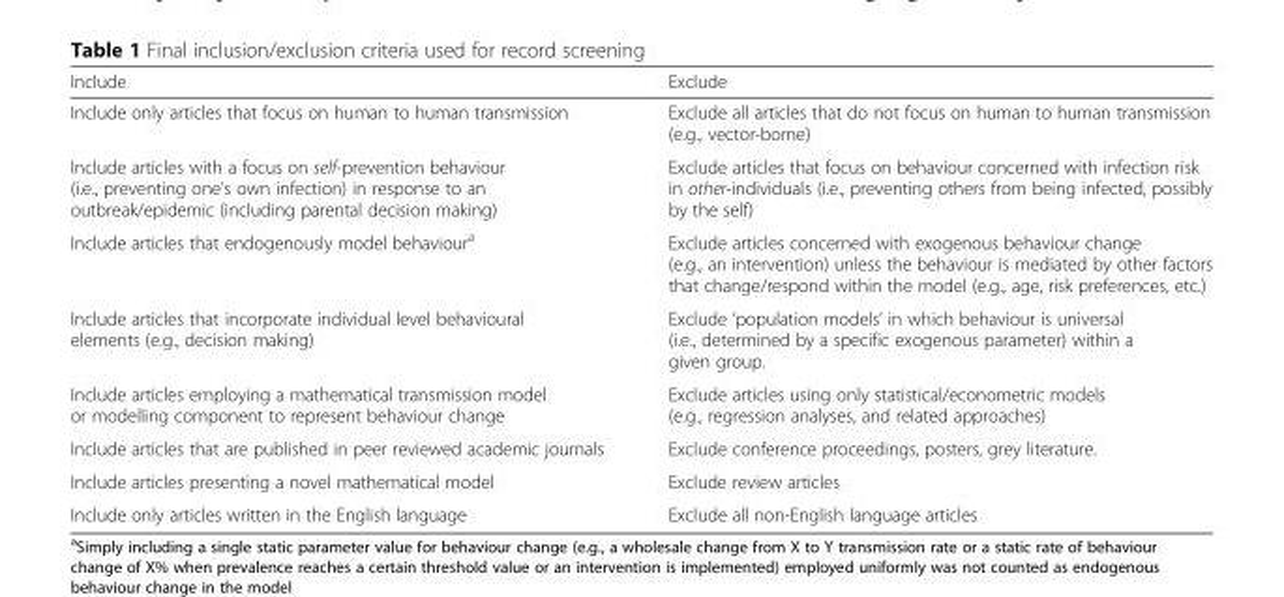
<table><thead><tr><td>Include</td><td>Exclude</td></tr></thead><tbody><tr><td>Include only articles that focus on human to human transmission</td><td>Exclude all articles that do not focus on human to human transmission (e.g., vector-borne)</td></tr><tr><td>Include articles with a focus on self-prevention behaviour (i.e., preventing one’s own infection) in response to an outbreak/epidemic (including parental decision making)</td><td>Exclude articles that focus on behaviour concerned with infection risk in other-individuals (i.e., preventing others from being infected, possibly by the self)</td></tr><tr><td>Include articles that endogenously model behaviour<sup>a</sup></td><td>Exclude articles concerned with exogenous behaviour change (e.g., an intervention) unless the behaviour is mediated by other factors that change/respond within the model (e.g., age, risk preferences, etc.)</td></tr><tr><td>Include articles that incorporate individual level behavioural elements (e.g., decision making)</td><td>Exclude ‘population models’ in which behaviour is universal (i.e., determined by a specific exogenous parameter) within a given group.</td></tr><tr><td>Include articles employing a mathematical transmission model or modelling component to represent behaviour change</td><td>Exclude articles using only statistical/econometric models (e.g., regression analyses, and related approaches)</td></tr><tr><td>Include articles that are published in peer reviewed academic journals</td><td>Exclude conference proceedings, posters, grey literature.</td></tr><tr><td>Include articles presenting a novel mathematical model</td><td>Exclude review articles</td></tr><tr><td>Include only articles written in the English language</td><td>Exclude all non-English language articles</td></tr></tbody></table>